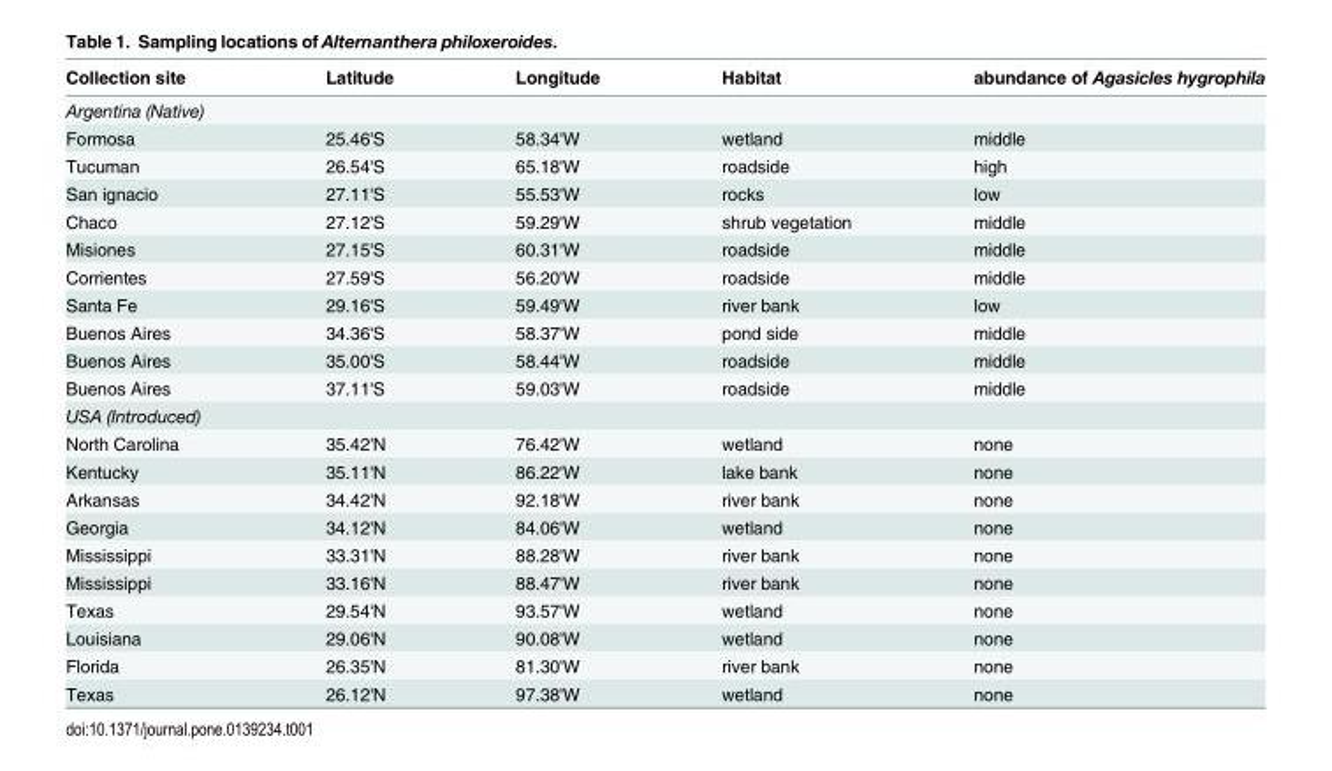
<table><thead><tr><td>Collection site</td><td>Latitude</td><td>Longitude</td><td>Habitat</td><td>abundance of Agasicles hygrophila</td></tr></thead><tbody><tr><td colspan="5">Argentina (Native)</td></tr><tr><td>Formosa</td><td>25.46&#x27;S</td><td>58.34&#x27;W</td><td>wetland</td><td>middle</td></tr><tr><td>Tucuman</td><td>26.54&#x27;S</td><td>65.18&#x27;W</td><td>roadside</td><td>high</td></tr><tr><td>San ignacio</td><td>27.11&#x27;S</td><td>55.53&#x27;W</td><td>rocks</td><td>low</td></tr><tr><td>Chaco</td><td>27.12&#x27;S</td><td>59.29&#x27;W</td><td>shrub vegetation</td><td>middle</td></tr><tr><td>Misiones</td><td>27.15&#x27;S</td><td>60.31&#x27;W</td><td>roadside</td><td>middle</td></tr><tr><td>Corrientes</td><td>27.59&#x27;S</td><td>56.20&#x27;W</td><td>roadside</td><td>middle</td></tr><tr><td>Santa Fe</td><td>29.16&#x27;S</td><td>59.49&#x27;W</td><td>river bank</td><td>low</td></tr><tr><td>Buenos Aires</td><td>34.36&#x27;S</td><td>58.37&#x27;W</td><td>pond side</td><td>middle</td></tr><tr><td>Buenos Aires</td><td>35.00&#x27;S</td><td>58.44&#x27;W</td><td>roadside</td><td>middle</td></tr><tr><td>Buenos Aires</td><td>37.11&#x27;S</td><td>59.03&#x27;W</td><td>roadside</td><td>middle</td></tr><tr><td colspan="5">USA (Introduced)</td></tr><tr><td>North Carolina</td><td>35.42&#x27;N</td><td>76.42&#x27;W</td><td>wetland</td><td>none</td></tr><tr><td>Kentucky</td><td>35.11&#x27;N</td><td>86.22&#x27;W</td><td>lake bank</td><td>none</td></tr><tr><td>Arkansas</td><td>34.42&#x27;N</td><td>92.18&#x27;W</td><td>river bank</td><td>none</td></tr><tr><td>Georgia</td><td>34.12&#x27;N</td><td>84.06&#x27;W</td><td>wetland</td><td>none</td></tr><tr><td>Mississippi</td><td>33.31&#x27;N</td><td>88.28&#x27;W</td><td>river bank</td><td>none</td></tr><tr><td>Mississippi</td><td>33.16&#x27;N</td><td>88.47&#x27;W</td><td>river bank</td><td>none</td></tr><tr><td>Texas</td><td>29.54&#x27;N</td><td>93.57&#x27;W</td><td>wetland</td><td>none</td></tr><tr><td>Louisiana</td><td>29.06&#x27;N</td><td>90.08&#x27;W</td><td>wetland</td><td>none</td></tr><tr><td>Florida</td><td>26.35&#x27;N</td><td>81.30&#x27;W</td><td>river bank</td><td>none</td></tr><tr><td>Texas</td><td>26.12&#x27;N</td><td>97.38&#x27;W</td><td>wetland</td><td>none</td></tr></tbody></table>